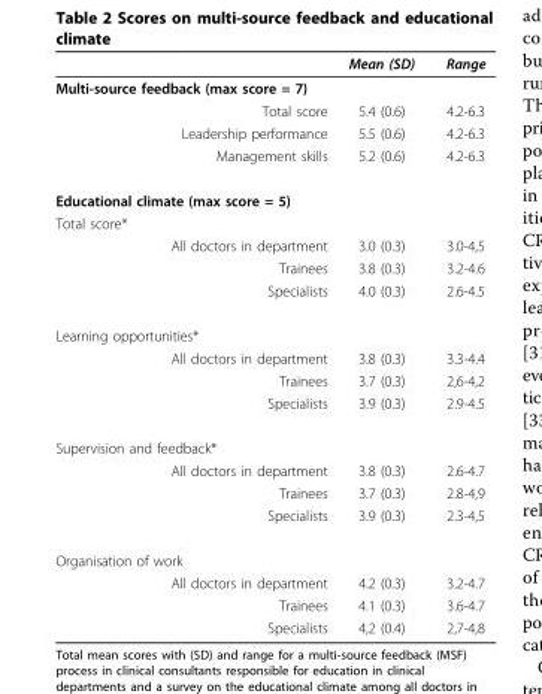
<table><thead><tr><td></td><td>Mean (SD)</td><td>Range</td></tr></thead><tbody><tr><td colspan="3">Multi-source feedback (max score = 7)</td></tr><tr><td>Total score</td><td>5.4 (0.6)</td><td>4.2-6.3</td></tr><tr><td>Leadership performance</td><td>5.5 (0.6)</td><td>4.2-6.3</td></tr><tr><td>Management skills</td><td>5.2 (0.6)</td><td>4.2-6.3</td></tr><tr><td colspan="3">Educational climate (max score = 5)</td></tr><tr><td colspan="3">Total score*</td></tr><tr><td>All doctors in department</td><td>3.0 (0.3)</td><td>3.0-4,5</td></tr><tr><td>Trainees</td><td>3.8 (0.3)</td><td>3.2-4.6</td></tr><tr><td>Specialists</td><td>4.0 (0.3)</td><td>2.6-4.5</td></tr><tr><td colspan="3">Learning opportunities*</td></tr><tr><td>All doctors in department</td><td>3.8 (0.3)</td><td>3.3-4.4</td></tr><tr><td>Trainees</td><td>3.7 (0.3)</td><td>2,6-4,2</td></tr><tr><td>Specialists</td><td>3.9 (0.3)</td><td>2.9-4.5</td></tr><tr><td colspan="3">Supervision and feedback*</td></tr><tr><td>All doctors in department</td><td>3.8 (0.3)</td><td>2.6-4.7</td></tr><tr><td>Trainees</td><td>3.7 (0.3)</td><td>2.8-4,9</td></tr><tr><td>Specialists</td><td>3.9 (0.3)</td><td>2.3-4,5</td></tr><tr><td colspan="3">Organisation of work</td></tr><tr><td>All doctors in department</td><td>4.2 (0.3)</td><td>3.2-4.7</td></tr><tr><td>Trainees</td><td>4.1 (0.3)</td><td>3.6-4.7</td></tr><tr><td>Specialists</td><td>4,2 (0.4)</td><td>2,7-4,8</td></tr></tbody></table>